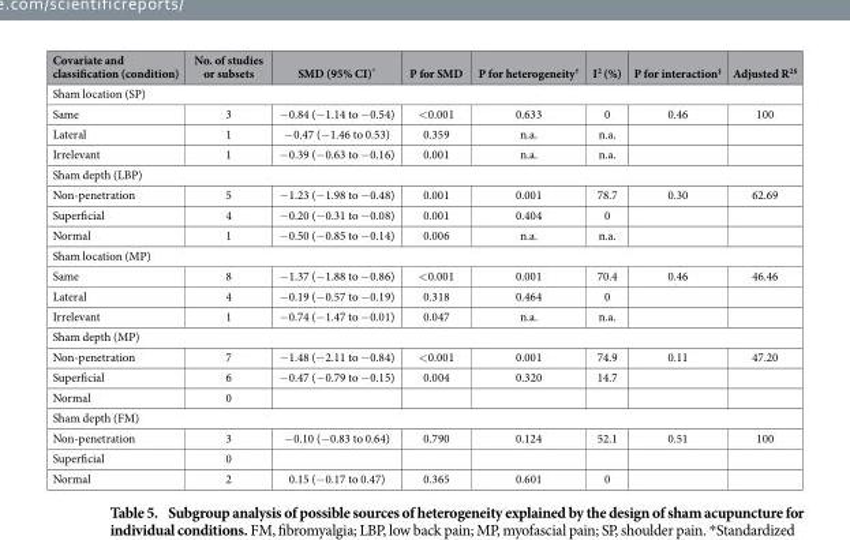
<table><thead><tr><td>Covariate and classification (condition)</td><td>No. of studies or subsets</td><td>SMD (95% CI)*</td><td>P for SMD</td><td>P for heterogeneity†</td><td>I<sup>2</sup> (%)</td><td>P for interaction‡</td><td>Adjusted R<sup>2</sup>$</td></tr></thead><tbody><tr><td colspan="8">Sham location (SP)</td></tr><tr><td>Same</td><td>3</td><td>− 0.84 (− 1.14 to − 0.54)</td><td>&lt; 0.001</td><td>0.633</td><td>0</td><td>0.46</td><td>100</td></tr><tr><td>Lateral</td><td>1</td><td>− 0.47 (− 1.46 to 0.53)</td><td>0.359</td><td>n.a.</td><td>n.a.</td><td></td><td></td></tr><tr><td>Irrelevant</td><td>1</td><td>− 0.39 (− 0.63 to − 0.16)</td><td>0.001</td><td>n.a.</td><td>n.a.</td><td></td><td></td></tr><tr><td colspan="8">Sham depth (LBP)</td></tr><tr><td>Non-penetration</td><td>5</td><td>− 1.23 (− 1.98 to − 0.48)</td><td>0.001</td><td>0.001</td><td>78.7</td><td>0.30</td><td>62.69</td></tr><tr><td>Superficial</td><td>4</td><td>− 0.20 (− 0.31 to − 0.08)</td><td>0.001</td><td>0.404</td><td>0</td><td></td><td></td></tr><tr><td>Normal</td><td>1</td><td>− 0.50 (− 0.85 to − 0.14)</td><td>0.006</td><td>n.a.</td><td>n.a.</td><td></td><td></td></tr><tr><td colspan="8">Sham location (MP)</td></tr><tr><td>Same</td><td>8</td><td>− 1.37 (− 1.88 to − 0.86)</td><td>&lt; 0.001</td><td>0.001</td><td>70.4</td><td>0.46</td><td>46.46</td></tr><tr><td>Lateral</td><td>4</td><td>− 0.19 (− 0.57 to − 0.19)</td><td>0.318</td><td>0.464</td><td>0</td><td></td><td></td></tr><tr><td>Irrelevant</td><td>1</td><td>− 0.74 (− 1.47 to − 0.01)</td><td>0.047</td><td>n.a.</td><td>n.a.</td><td></td><td></td></tr><tr><td colspan="8">Sham depth (MP)</td></tr><tr><td>Non-penetration</td><td>7</td><td>− 1.48 (− 2.11 to − 0.84)</td><td>&lt; 0.001</td><td>0.001</td><td>74.9</td><td>0.11</td><td>47.20</td></tr><tr><td>Superficial</td><td>6</td><td>− 0.47 (− 0.79 to − 0.15)</td><td>0.004</td><td>0.320</td><td>14.7</td><td></td><td></td></tr><tr><td>Normal</td><td>0</td><td></td><td></td><td></td><td></td><td></td><td></td></tr><tr><td colspan="8">Sham depth (FM)</td></tr><tr><td>Non-penetration</td><td>3</td><td>− 0.10 (− 0.83 to 0.64)</td><td>0.790</td><td>0.124</td><td>52.1</td><td>0.51</td><td>100</td></tr><tr><td>Superficial</td><td>0</td><td></td><td></td><td></td><td></td><td></td><td></td></tr><tr><td>Normal</td><td>2</td><td>0.15 (− 0.17 to 0.47)</td><td>0.365</td><td>0.601</td><td>0</td><td></td><td></td></tr></tbody></table>